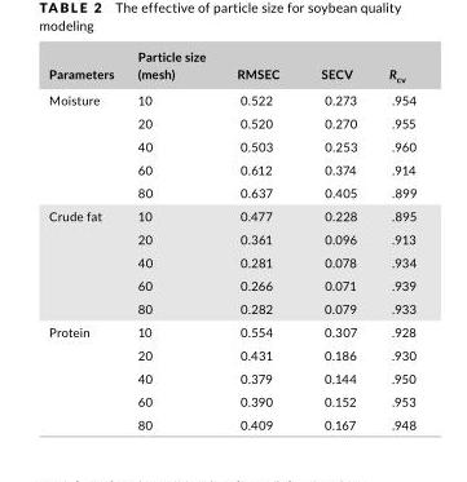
<table><thead><tr><td>Parameters</td><td>Particle size (mesh)</td><td>RMSEC</td><td>SECV</td><td>R<sub>cv</sub></td></tr></thead><tbody><tr><td rowspan="5">Moisture</td><td>10</td><td>0.522</td><td>0.273</td><td>.954</td></tr><tr><td>20</td><td>0.520</td><td>0.270</td><td>.955</td></tr><tr><td>40</td><td>0.503</td><td>0.253</td><td>.960</td></tr><tr><td>60</td><td>0.612</td><td>0.374</td><td>.914</td></tr><tr><td>80</td><td>0.637</td><td>0.405</td><td>.899</td></tr><tr><td rowspan="5">Crude fat</td><td>10</td><td>0.477</td><td>0.228</td><td>.895</td></tr><tr><td>20</td><td>0.361</td><td>0.096</td><td>.913</td></tr><tr><td>40</td><td>0.281</td><td>0.078</td><td>.934</td></tr><tr><td>60</td><td>0.266</td><td>0.071</td><td>.939</td></tr><tr><td>80</td><td>0.282</td><td>0.079</td><td>.933</td></tr><tr><td rowspan="5">Protein</td><td>10</td><td>0.554</td><td>0.307</td><td>.928</td></tr><tr><td>20</td><td>0.431</td><td>0.186</td><td>.930</td></tr><tr><td>40</td><td>0.379</td><td>0.144</td><td>.950</td></tr><tr><td>60</td><td>0.390</td><td>0.152</td><td>.953</td></tr><tr><td>80</td><td>0.409</td><td>0.167</td><td>.948</td></tr></tbody></table>